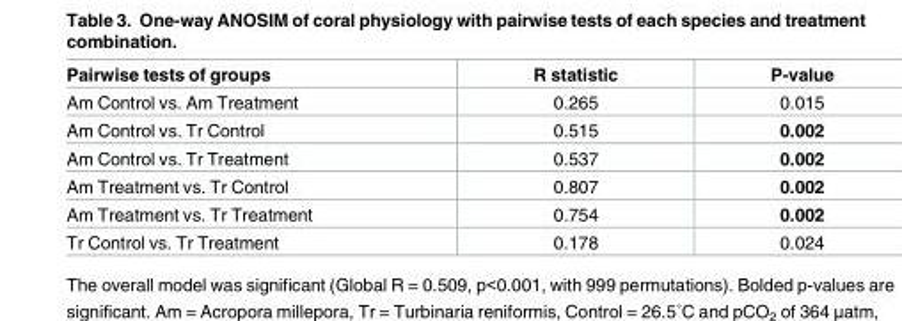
<table><thead><tr><td>Pairwise tests of groups</td><td>R statistic</td><td>P-value</td></tr></thead><tbody><tr><td>Am Control vs. Am Treatment</td><td>0.265</td><td>0.015</td></tr><tr><td>Am Control vs. Tr Control</td><td>0.515</td><td>0.002</td></tr><tr><td>Am Control vs. Tr Treatment</td><td>0.537</td><td>0.002</td></tr><tr><td>Am Treatment vs. Tr Control</td><td>0.807</td><td>0.002</td></tr><tr><td>Am Treatment vs. Tr Treatment</td><td>0.754</td><td>0.002</td></tr><tr><td>Tr Control vs. Tr Treatment</td><td>0.178</td><td>0.024</td></tr></tbody></table>